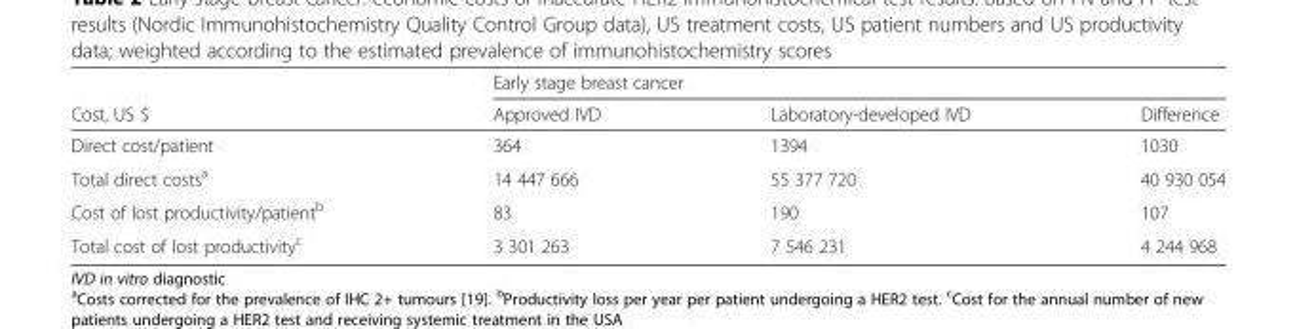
<table><thead><tr><td rowspan="2">Cost, US $</td><td colspan="3">Early stage breast cancer</td></tr><tr><td>Approved IVD</td><td>Laboratory-developed IVD</td><td>Difference</td></tr></thead><tbody><tr><td>Direct cost/patient</td><td>364</td><td>1394</td><td>1030</td></tr><tr><td>Total direct costs<sup>a</sup></td><td>14 447 666</td><td>55 377 720</td><td>40 930 054</td></tr><tr><td>Cost of lost productivity/patient<sup>b</sup></td><td>83</td><td>190</td><td>107</td></tr><tr><td>Total cost of lost productivity<sup>c</sup></td><td>3 301 263</td><td>7 546 231</td><td>4 244 968</td></tr></tbody></table>